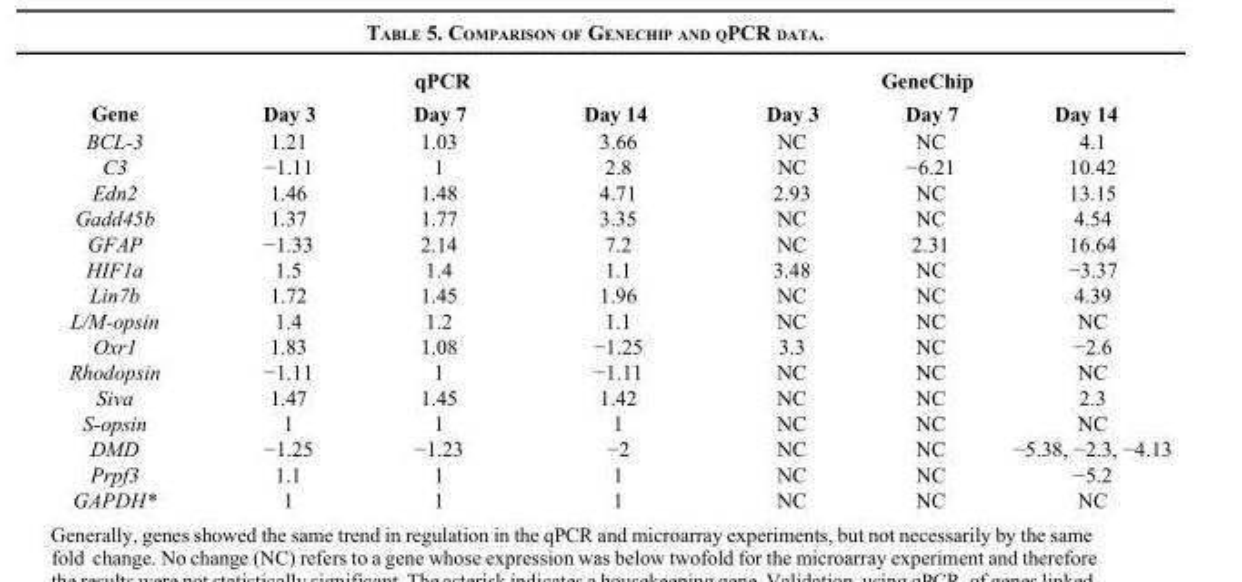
<table><thead><tr><td rowspan="2">Gene</td><td colspan="3">qPCR</td><td colspan="3">GeneChip</td></tr><tr><td>Day 3</td><td>Day 7</td><td>Day 14</td><td>Day 3</td><td>Day 7</td><td>Day 14</td></tr></thead><tbody><tr><td>BCL-3</td><td>1.21</td><td>1.03</td><td>3.66</td><td>NC</td><td>NC</td><td>4.1</td></tr><tr><td>C3</td><td>−1.11</td><td>1</td><td>2.8</td><td>NC</td><td>−6.21</td><td>10.42</td></tr><tr><td>Edn2</td><td>1.46</td><td>1.48</td><td>4.71</td><td>2.93</td><td>NC</td><td>13.15</td></tr><tr><td>Gadd45b</td><td>1.37</td><td>1.77</td><td>3.35</td><td>NC</td><td>NC</td><td>4.54</td></tr><tr><td>GFAP</td><td>−1.33</td><td>2.14</td><td>7.2</td><td>NC</td><td>2.31</td><td>16.64</td></tr><tr><td>HIF1a</td><td>1.5</td><td>1.4</td><td>1.1</td><td>3.48</td><td>NC</td><td>−3.37</td></tr><tr><td>Lin7b</td><td>1.72</td><td>1.45</td><td>1.96</td><td>NC</td><td>NC</td><td>4.39</td></tr><tr><td>L/M-opsin</td><td>1.4</td><td>1.2</td><td>1.1</td><td>NC</td><td>NC</td><td>NC</td></tr><tr><td>Oxr1</td><td>1.83</td><td>1.08</td><td>−1.25</td><td>3.3</td><td>NC</td><td>−2.6</td></tr><tr><td>Rhodopsin</td><td>−1.11</td><td>1</td><td>−1.11</td><td>NC</td><td>NC</td><td>NC</td></tr><tr><td>Siva</td><td>1.47</td><td>1.45</td><td>1.42</td><td>NC</td><td>NC</td><td>2.3</td></tr><tr><td>S-opsin</td><td>1</td><td>1</td><td>1</td><td>NC</td><td>NC</td><td>NC</td></tr><tr><td>DMD</td><td>−1.25</td><td>−1.23</td><td>−2</td><td>NC</td><td>NC</td><td>−5.38, −2.3, −4.13</td></tr><tr><td>Prpf3</td><td>1.1</td><td>1</td><td>1</td><td>NC</td><td>NC</td><td>−5.2</td></tr><tr><td>GAPDH*</td><td>1</td><td>1</td><td>1</td><td>NC</td><td>NC</td><td>NC</td></tr></tbody></table>